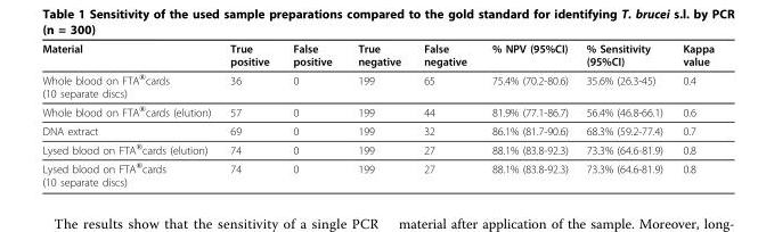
<table><thead><tr><td>Material</td><td>True positive</td><td>False positive</td><td>True negative</td><td>False negative</td><td>% NPV (95%CI)</td><td>% Sensitivity (95%CI)</td><td>Kappa value</td></tr></thead><tbody><tr><td>Whole blood on FTA<sup>®</sup>cards (10 separate discs)</td><td>36</td><td>0</td><td>199</td><td>65</td><td>75.4% (70.2-80.6)</td><td>35.6% (26.3-45)</td><td>0.4</td></tr><tr><td>Whole blood on FTA<sup>®</sup>cards (elution)</td><td>57</td><td>0</td><td>199</td><td>44</td><td>81.9% (77.1-86.7)</td><td>56.4% (46.8-66.1)</td><td>0.6</td></tr><tr><td>DNA extract</td><td>69</td><td>0</td><td>199</td><td>32</td><td>86.1% (81.7-90.6)</td><td>68.3% (59.2-77.4)</td><td>0.7</td></tr><tr><td>Lysed blood on FTA<sup>®</sup>cards (elution)</td><td>74</td><td>0</td><td>199</td><td>27</td><td>88.1% (83.8-92.3)</td><td>73.3% (64.6-81.9)</td><td>0.8</td></tr><tr><td>Lysed blood on FTA<sup>®</sup>cards (10 separate discs)</td><td>74</td><td>0</td><td>199</td><td>27</td><td>88.1% (83.8-92.3)</td><td>73.3% (64.6-81.9)</td><td>0.8</td></tr></tbody></table>